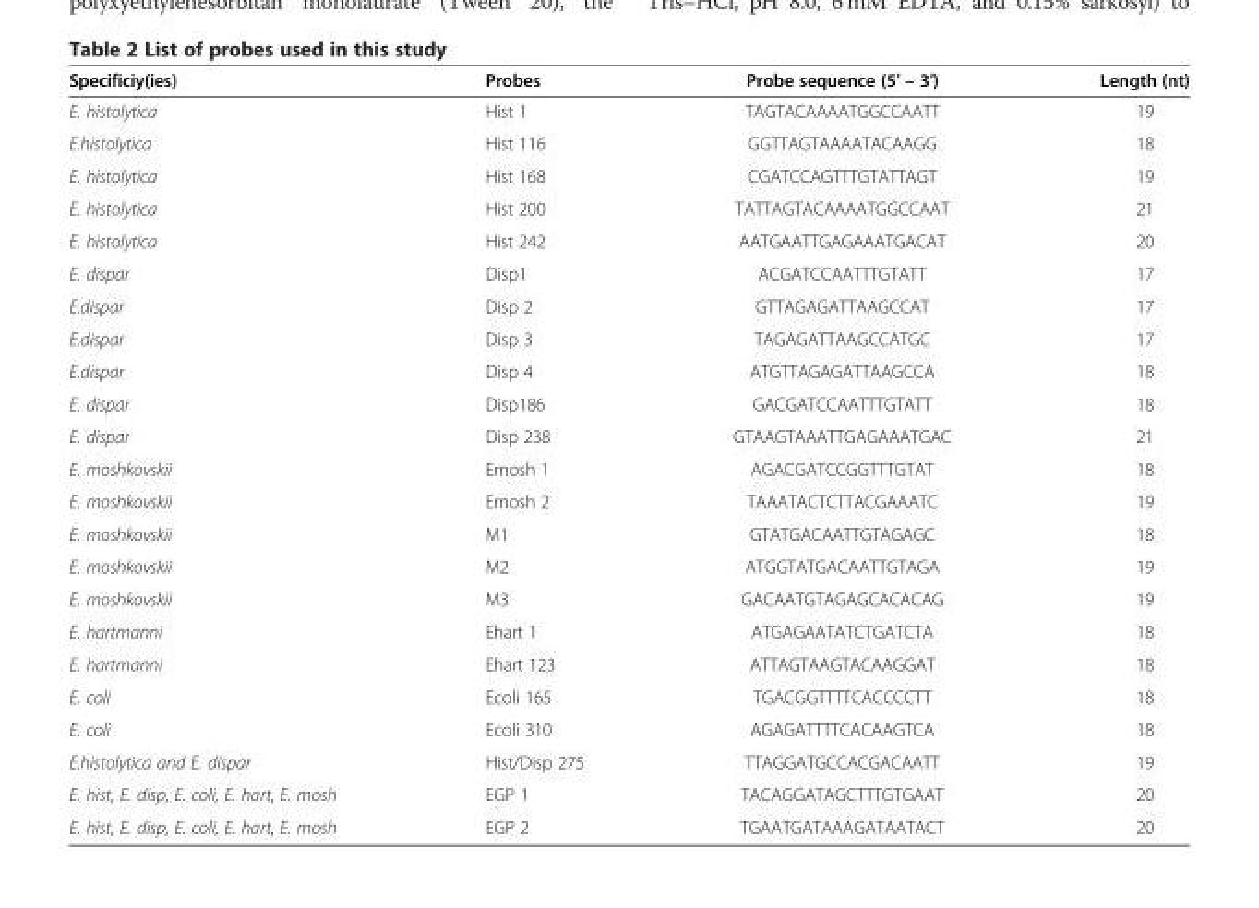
<table><thead><tr><td>Specificiy(ies)</td><td>Probes</td><td>Probe sequence (5′ – 3′)</td><td>Length (nt)</td></tr></thead><tbody><tr><td>E. histolytica</td><td>Hist 1</td><td>TAGTACAAAATGGCCAATT</td><td>19</td></tr><tr><td>E.histolytica</td><td>Hist 116</td><td>GGTTAGTAAAATACAAGG</td><td>18</td></tr><tr><td>E. histolytica</td><td>Hist 168</td><td>CGATCCAGTTTGTATTAGT</td><td>19</td></tr><tr><td>E. histolytica</td><td>Hist 200</td><td>TATTAGTACAAAATGGCCAAT</td><td>21</td></tr><tr><td>E. histolytica</td><td>Hist 242</td><td>AATGAATTGAGAAATGACAT</td><td>20</td></tr><tr><td>E. dispar</td><td>Disp1</td><td>ACGATCCAATTTGTATT</td><td>17</td></tr><tr><td>E.dispar</td><td>Disp 2</td><td>GTTAGAGATTAAGCCAT</td><td>17</td></tr><tr><td>E.dispar</td><td>Disp 3</td><td>TAGAGATTAAGCCATGC</td><td>17</td></tr><tr><td>E.dispar</td><td>Disp 4</td><td>ATGTTAGAGATTAAGCCA</td><td>18</td></tr><tr><td>E. dispar</td><td>Disp186</td><td>GACGATCCAATTTGTATT</td><td>18</td></tr><tr><td>E. dispar</td><td>Disp 238</td><td>GTAAGTAAATTGAGAAATGAC</td><td>21</td></tr><tr><td>E. moshkovskii</td><td>Emosh 1</td><td>AGACGATCCGGTTTGTAT</td><td>18</td></tr><tr><td>E. moshkovskii</td><td>Emosh 2</td><td>TAAATACTCTTACGAAATC</td><td>19</td></tr><tr><td>E. moshkovskii</td><td>M1</td><td>GTATGACAATTGTAGAGC</td><td>18</td></tr><tr><td>E. moshkovskii</td><td>M2</td><td>ATGGTATGACAATTGTAGA</td><td>19</td></tr><tr><td>E. moshkovskii</td><td>M3</td><td>GACAATGTAGAGCACACAG</td><td>19</td></tr><tr><td>E. hartmanni</td><td>Ehart 1</td><td>ATGAGAATATCTGATCTA</td><td>18</td></tr><tr><td>E. hartmanni</td><td>Ehart 123</td><td>ATTAGTAAGTACAAGGAT</td><td>18</td></tr><tr><td>E. coli</td><td>Ecoli 165</td><td>TGACGGTTTTCACCCCTT</td><td>18</td></tr><tr><td>E. coli</td><td>Ecoli 310</td><td>AGAGATTTTCACAAGTCA</td><td>18</td></tr><tr><td>E.histolytica and E. dispar</td><td>Hist/Disp 275</td><td>TTAGGATGCCACGACAATT</td><td>19</td></tr><tr><td>E. hist, E. disp, E. coli, E. hart, E. mosh</td><td>EGP 1</td><td>TACAGGATAGCTTTGTGAAT</td><td>20</td></tr><tr><td>E. hist, E. disp, E. coli, E. hart, E. mosh</td><td>EGP 2</td><td>TGAATGATAAAGATAATACT</td><td>20</td></tr></tbody></table>